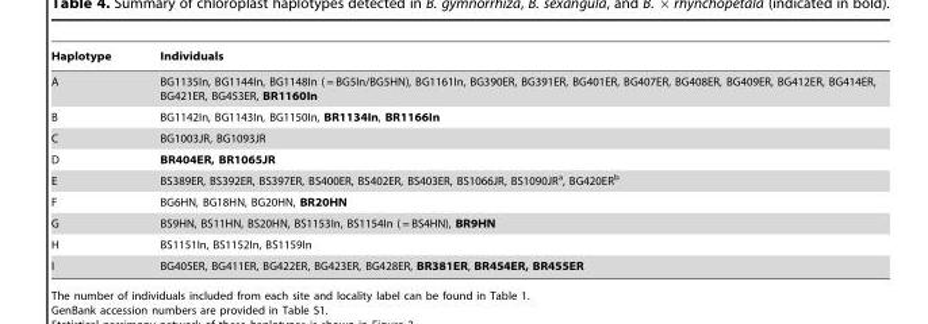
<table><thead><tr><td>Haplotype</td><td>Individuals</td></tr></thead><tbody><tr><td>A</td><td>BG1135In, BG1144In, BG1148In ( = BG5In/BG5HN), BG1161In, BG390ER, BG391ER, BG401ER, BG407ER, BG408ER, BG409ER, BG412ER, BG414ER, BG421ER, BG453ER, BR1160In</td></tr><tr><td>B</td><td>BG1142In, BG1143In, BG1150In, BR1134In, BR1166In</td></tr><tr><td>C</td><td>BG1003JR, BG1093JR</td></tr><tr><td>D</td><td>BR404ER, BR1065JR</td></tr><tr><td>E</td><td>BS389ER, BS392ER, BS397ER, BS400ER, BS402ER, BS403ER, BS1066JR, BS1090JR<sup>a</sup>, BG420ER<sup>b</sup></td></tr><tr><td>F</td><td>BG6HN, BG18HN, BG20HN, BR20HN</td></tr><tr><td>G</td><td>BS9HN, BS11HN, BS20HN, BS1153In, BS1154In ( = BS4HN), BR9HN</td></tr><tr><td>H</td><td>BS1151In, BS1152In, BS1159In</td></tr><tr><td>I</td><td>BG405ER, BG411ER, BG422ER, BG423ER, BG428ER, BR381ER, BR454ER, BR455ER</td></tr></tbody></table>